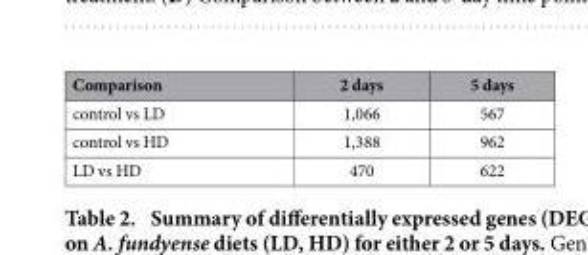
<table><thead><tr><td>Comparison</td><td>2 days</td><td>5 days</td></tr></thead><tbody><tr><td>control vs LD</td><td>1,066</td><td>567</td></tr><tr><td>control vs HD</td><td>1,388</td><td>962</td></tr><tr><td>LD vs HD</td><td>470</td><td>622</td></tr></tbody></table>